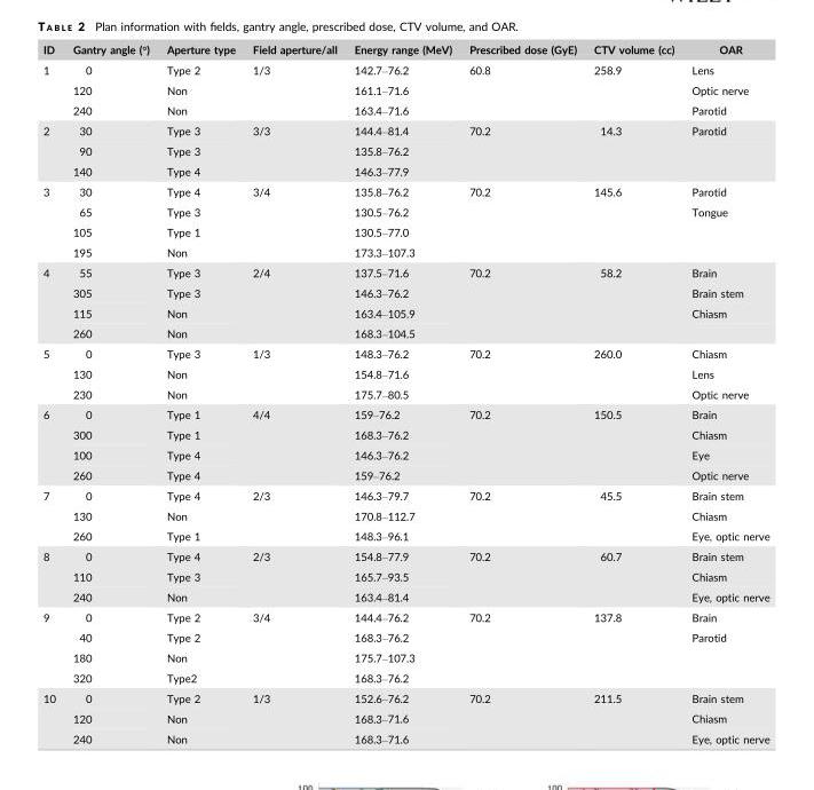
<table><thead><tr><td>ID</td><td>Gantry angle (°)</td><td>Aperture type</td><td>Field aperture/all</td><td>Energy range (MeV)</td><td>Prescribed dose (GyE)</td><td>CTV volume (cc)</td><td>OAR</td></tr></thead><tbody><tr><td rowspan="3">1</td><td>0</td><td>Type 2</td><td rowspan="3">1/3</td><td>142.7–76.2</td><td rowspan="3">60.8</td><td rowspan="3">258.9</td><td>Lens</td></tr><tr><td>120</td><td>Non</td><td>161.1–71.6</td><td>Optic nerve</td></tr><tr><td>240</td><td>Non</td><td>163.4–71.6</td><td>Parotid</td></tr><tr><td rowspan="3">2</td><td>30</td><td>Type 3</td><td rowspan="3">3/3</td><td>144.4–81.4</td><td rowspan="3">70.2</td><td rowspan="3">14.3</td><td>Parotid</td></tr><tr><td>90</td><td>Type 3</td><td>135.8–76.2</td><td></td></tr><tr><td>140</td><td>Type 4</td><td>146.3–77.9</td><td></td></tr><tr><td rowspan="4">3</td><td>30</td><td>Type 4</td><td rowspan="4">3/4</td><td>135.8–76.2</td><td rowspan="4">70.2</td><td rowspan="4">145.6</td><td>Parotid</td></tr><tr><td>65</td><td>Type 3</td><td>130.5–76.2</td><td>Tongue</td></tr><tr><td>105</td><td>Type 1</td><td>130.5–77.0</td><td></td></tr><tr><td>195</td><td>Non</td><td>173.3–107.3</td><td></td></tr><tr><td rowspan="4">4</td><td>55</td><td>Type 3</td><td rowspan="4">2/4</td><td>137.5–71.6</td><td rowspan="4">70.2</td><td rowspan="4">58.2</td><td>Brain</td></tr><tr><td>305</td><td>Type 3</td><td>146.3–76.2</td><td>Brain stem</td></tr><tr><td>115</td><td>Non</td><td>163.4–105.9</td><td>Chiasm</td></tr><tr><td>260</td><td>Non</td><td>168.3–104.5</td><td></td></tr><tr><td rowspan="3">5</td><td>0</td><td>Type 3</td><td rowspan="3">1/3</td><td>148.3–76.2</td><td rowspan="3">70.2</td><td rowspan="3">260.0</td><td>Chiasm</td></tr><tr><td>130</td><td>Non</td><td>154.8–71.6</td><td>Lens</td></tr><tr><td>230</td><td>Non</td><td>175.7–80.5</td><td>Optic nerve</td></tr><tr><td rowspan="4">6</td><td>0</td><td>Type 1</td><td rowspan="4">4/4</td><td>159–76.2</td><td rowspan="4">70.2</td><td rowspan="4">150.5</td><td>Brain</td></tr><tr><td>300</td><td>Type 1</td><td>168.3–76.2</td><td>Chiasm</td></tr><tr><td>100</td><td>Type 4</td><td>146.3–76.2</td><td>Eye</td></tr><tr><td>260</td><td>Type 4</td><td>159–76.2</td><td>Optic nerve</td></tr><tr><td rowspan="3">7</td><td>0</td><td>Type 4</td><td rowspan="3">2/3</td><td>146.3–79.7</td><td rowspan="3">70.2</td><td rowspan="3">45.5</td><td>Brain stem</td></tr><tr><td>130</td><td>Non</td><td>170.8–112.7</td><td>Chiasm</td></tr><tr><td>260</td><td>Type 1</td><td>148.3–96.1</td><td>Eye, optic nerve</td></tr><tr><td rowspan="3">8</td><td>0</td><td>Type 4</td><td rowspan="3">2/3</td><td>154.8–77.9</td><td rowspan="3">70.2</td><td rowspan="3">60.7</td><td>Brain stem</td></tr><tr><td>110</td><td>Type 3</td><td>165.7–93.5</td><td>Chiasm</td></tr><tr><td>240</td><td>Non</td><td>163.4–81.4</td><td>Eye, optic nerve</td></tr><tr><td rowspan="4">9</td><td>0</td><td>Type 2</td><td rowspan="4">3/4</td><td>144.4–76.2</td><td rowspan="4">70.2</td><td rowspan="4">137.8</td><td>Brain</td></tr><tr><td>40</td><td>Type 2</td><td>168.3–76.2</td><td>Parotid</td></tr><tr><td>180</td><td>Non</td><td>175.7–107.3</td><td></td></tr><tr><td>320</td><td>Type2</td><td>168.3–76.2</td><td></td></tr><tr><td rowspan="3">10</td><td>0</td><td>Type 2</td><td rowspan="3">1/3</td><td>152.6–76.2</td><td rowspan="3">70.2</td><td rowspan="3">211.5</td><td>Brain stem</td></tr><tr><td>120</td><td>Non</td><td>168.3–71.6</td><td>Chiasm</td></tr><tr><td>240</td><td>Non</td><td>168.3–71.6</td><td>Eye, optic nerve</td></tr></tbody></table>